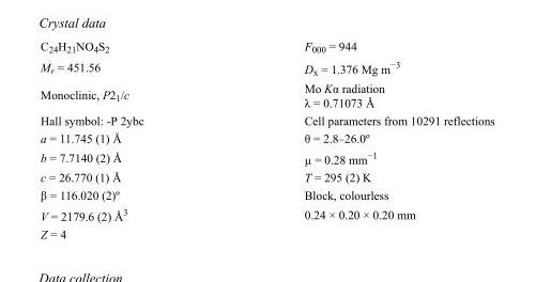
<table><tbody><tr><td>C<sub>24</sub>H<sub>21</sub>NO<sub>4</sub>S<sub>2</sub></td><td>F<sub>000</sub> = 944</td></tr><tr><td>M<sub>r</sub> = 451.56</td><td>D<sub>x</sub> = 1.376 Mg m<sup>−3</sup></td></tr><tr><td>Monoclinic, P2<sub>1</sub>/c</td><td>Mo Kα radiation λ = 0.71073 Å</td></tr><tr><td>Hall symbol: -P 2ybc</td><td>Cell parameters from 10291 reflections</td></tr><tr><td>a = 11.745 (1) Å</td><td>θ = 2.8–26.0º</td></tr><tr><td>b = 7.7140 (2) Å</td><td>µ = 0.28 mm<sup>−1</sup></td></tr><tr><td>c = 26.770 (1) Å</td><td>T = 295 (2) K</td></tr><tr><td>β = 116.020 (2)º</td><td>Block, colourless</td></tr><tr><td>V = 2179.6 (2) Å<sup>3</sup></td><td>0.24 × 0.20 × 0.20 mm</td></tr><tr><td>Z = 4</td><td></td></tr></tbody></table>